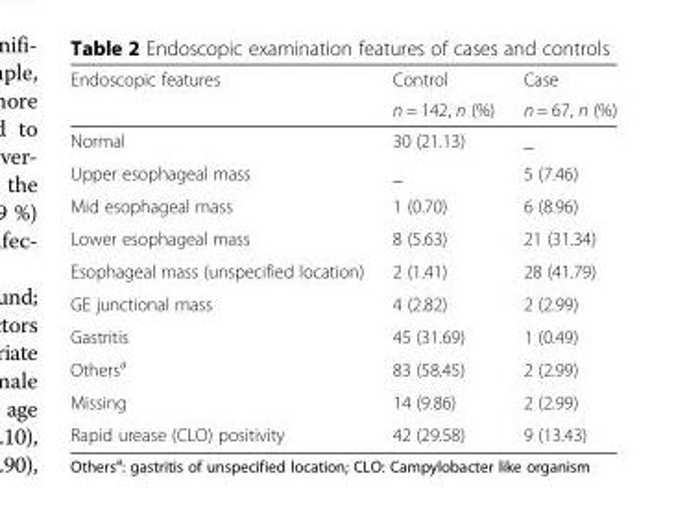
<table><thead><tr><td rowspan="2">Endoscopic features</td><td rowspan="2">Control n = 142, n (%)</td><td rowspan="2">Case n = 67, n (%)</td></tr><tr></tr></thead><tbody><tr><td>Normal</td><td>30 (21.13)</td><td>_</td></tr><tr><td>Upper esophageal mass</td><td>_</td><td>5 (7.46)</td></tr><tr><td>Mid esophageal mass</td><td>1 (0.70)</td><td>6 (8.96)</td></tr><tr><td>Lower esophageal mass</td><td>8 (5.63)</td><td>21 (31.34)</td></tr><tr><td>Esophageal mass (unspecified location)</td><td>2 (1.41)</td><td>28 (41.79)</td></tr><tr><td>GE junctional mass</td><td>4 (2.82)</td><td>2 (2.99)</td></tr><tr><td>Gastritis</td><td>45 (31.69)</td><td>1 (0.49)</td></tr><tr><td>Others<sup>a</sup></td><td>83 (58.45)</td><td>2 (2.99)</td></tr><tr><td>Missing</td><td>14 (9.86)</td><td>2 (2.99)</td></tr><tr><td>Rapid urease (CLO) positivity</td><td>42 (29.58)</td><td>9 (13.43)</td></tr></tbody></table>